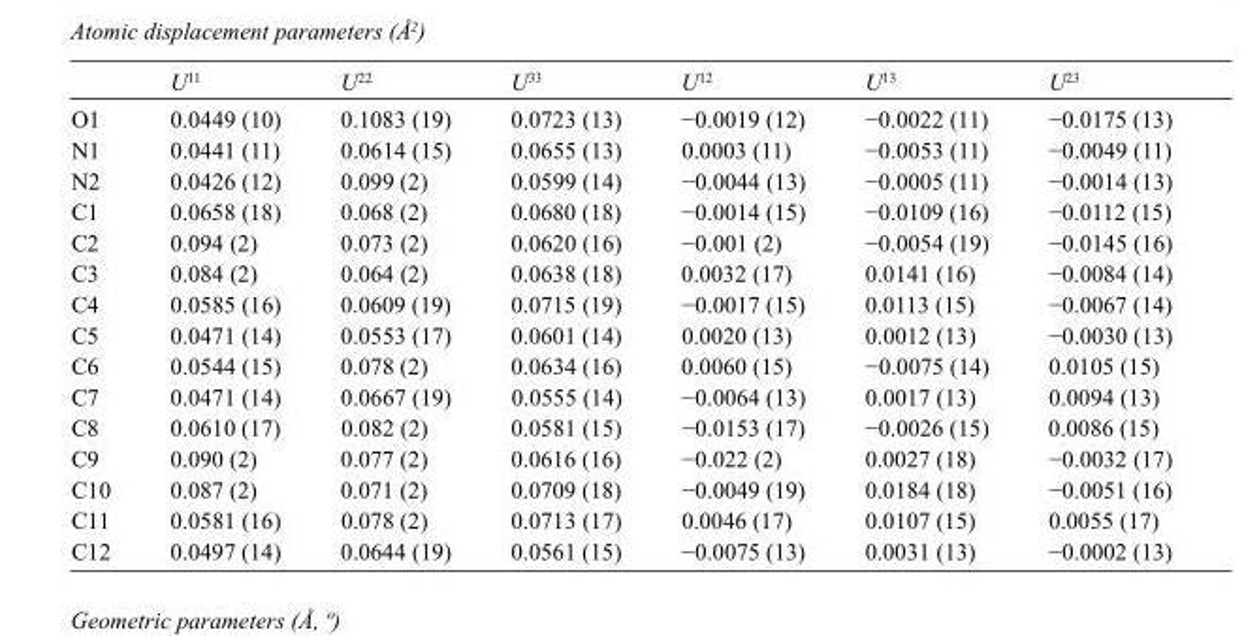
<table><thead><tr><td></td><td>U<sup>11</sup></td><td>U<sup>22</sup></td><td>U<sup>33</sup></td><td>U<sup>12</sup></td><td>U<sup>13</sup></td><td>U<sup>23</sup></td></tr></thead><tbody><tr><td>O1</td><td>0.0449 (10)</td><td>0.1083 (19)</td><td>0.0723 (13)</td><td>−0.0019 (12)</td><td>−0.0022 (11)</td><td>−0.0175 (13)</td></tr><tr><td>N1</td><td>0.0441 (11)</td><td>0.0614 (15)</td><td>0.0655 (13)</td><td>0.0003 (11)</td><td>−0.0053 (11)</td><td>−0.0049 (11)</td></tr><tr><td>N2</td><td>0.0426 (12)</td><td>0.099 (2)</td><td>0.0599 (14)</td><td>−0.0044 (13)</td><td>−0.0005 (11)</td><td>−0.0014 (13)</td></tr><tr><td>C1</td><td>0.0658 (18)</td><td>0.068 (2)</td><td>0.0680 (18)</td><td>−0.0014 (15)</td><td>−0.0109 (16)</td><td>−0.0112 (15)</td></tr><tr><td>C2</td><td>0.094 (2)</td><td>0.073 (2)</td><td>0.0620 (16)</td><td>−0.001 (2)</td><td>−0.0054 (19)</td><td>−0.0145 (16)</td></tr><tr><td>C3</td><td>0.084 (2)</td><td>0.064 (2)</td><td>0.0638 (18)</td><td>0.0032 (17)</td><td>0.0141 (16)</td><td>−0.0084 (14)</td></tr><tr><td>C4</td><td>0.0585 (16)</td><td>0.0609 (19)</td><td>0.0715 (19)</td><td>−0.0017 (15)</td><td>0.0113 (15)</td><td>−0.0067 (14)</td></tr><tr><td>C5</td><td>0.0471 (14)</td><td>0.0553 (17)</td><td>0.0601 (14)</td><td>0.0020 (13)</td><td>0.0012 (13)</td><td>−0.0030 (13)</td></tr><tr><td>C6</td><td>0.0544 (15)</td><td>0.078 (2)</td><td>0.0634 (16)</td><td>0.0060 (15)</td><td>−0.0075 (14)</td><td>0.0105 (15)</td></tr><tr><td>C7</td><td>0.0471 (14)</td><td>0.0667 (19)</td><td>0.0555 (14)</td><td>−0.0064 (13)</td><td>0.0017 (13)</td><td>0.0094 (13)</td></tr><tr><td>C8</td><td>0.0610 (17)</td><td>0.082 (2)</td><td>0.0581 (15)</td><td>−0.0153 (17)</td><td>−0.0026 (15)</td><td>0.0086 (15)</td></tr><tr><td>C9</td><td>0.090 (2)</td><td>0.077 (2)</td><td>0.0616 (16)</td><td>−0.022 (2)</td><td>0.0027 (18)</td><td>−0.0032 (17)</td></tr><tr><td>C10</td><td>0.087 (2)</td><td>0.071 (2)</td><td>0.0709 (18)</td><td>−0.0049 (19)</td><td>0.0184 (18)</td><td>−0.0051 (16)</td></tr><tr><td>C11</td><td>0.0581 (16)</td><td>0.078 (2)</td><td>0.0713 (17)</td><td>0.0046 (17)</td><td>0.0107 (15)</td><td>0.0055 (17)</td></tr><tr><td>C12</td><td>0.0497 (14)</td><td>0.0644 (19)</td><td>0.0561 (15)</td><td>−0.0075 (13)</td><td>0.0031 (13)</td><td>−0.0002 (13)</td></tr></tbody></table>